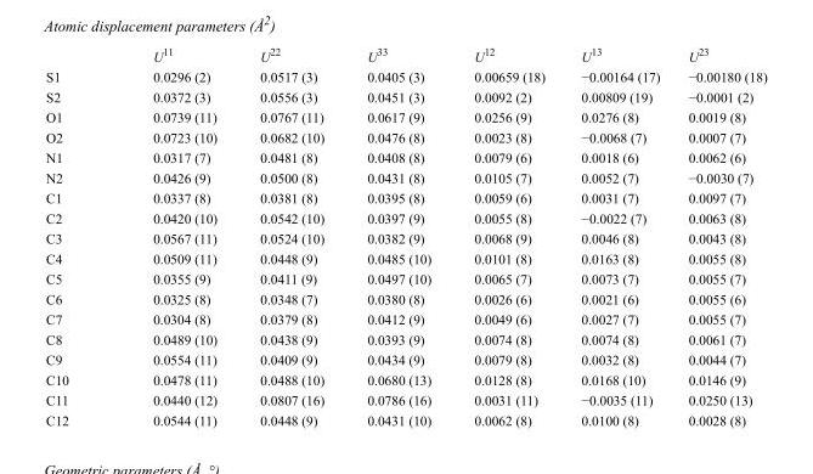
<table><thead><tr><td></td><td>U<sup>11</sup></td><td>U<sup>22</sup></td><td>U<sup>33</sup></td><td>U<sup>12</sup></td><td>U<sup>13</sup></td><td>U<sup>23</sup></td></tr></thead><tbody><tr><td>S1</td><td>0.0296 (2)</td><td>0.0517 (3)</td><td>0.0405 (3)</td><td>0.00659 (18)</td><td>−0.00164 (17)</td><td>−0.00180 (18)</td></tr><tr><td>S2</td><td>0.0372 (3)</td><td>0.0556 (3)</td><td>0.0451 (3)</td><td>0.0092 (2)</td><td>0.00809 (19)</td><td>−0.0001 (2)</td></tr><tr><td>O1</td><td>0.0739 (11)</td><td>0.0767 (11)</td><td>0.0617 (9)</td><td>0.0256 (9)</td><td>0.0276 (8)</td><td>0.0019 (8)</td></tr><tr><td>O2</td><td>0.0723 (10)</td><td>0.0682 (10)</td><td>0.0476 (8)</td><td>0.0023 (8)</td><td>−0.0068 (7)</td><td>0.0007 (7)</td></tr><tr><td>N1</td><td>0.0317 (7)</td><td>0.0481 (8)</td><td>0.0408 (8)</td><td>0.0079 (6)</td><td>0.0018 (6)</td><td>0.0062 (6)</td></tr><tr><td>N2</td><td>0.0426 (9)</td><td>0.0500 (8)</td><td>0.0431 (8)</td><td>0.0105 (7)</td><td>0.0052 (7)</td><td>−0.0030 (7)</td></tr><tr><td>C1</td><td>0.0337 (8)</td><td>0.0381 (8)</td><td>0.0395 (8)</td><td>0.0059 (6)</td><td>0.0031 (7)</td><td>0.0097 (7)</td></tr><tr><td>C2</td><td>0.0420 (10)</td><td>0.0542 (10)</td><td>0.0397 (9)</td><td>0.0055 (8)</td><td>−0.0022 (7)</td><td>0.0063 (8)</td></tr><tr><td>C3</td><td>0.0567 (11)</td><td>0.0524 (10)</td><td>0.0382 (9)</td><td>0.0068 (9)</td><td>0.0046 (8)</td><td>0.0043 (8)</td></tr><tr><td>C4</td><td>0.0509 (11)</td><td>0.0448 (9)</td><td>0.0485 (10)</td><td>0.0101 (8)</td><td>0.0163 (8)</td><td>0.0055 (8)</td></tr><tr><td>C5</td><td>0.0355 (9)</td><td>0.0411 (9)</td><td>0.0497 (10)</td><td>0.0065 (7)</td><td>0.0073 (7)</td><td>0.0055 (7)</td></tr><tr><td>C6</td><td>0.0325 (8)</td><td>0.0348 (7)</td><td>0.0380 (8)</td><td>0.0026 (6)</td><td>0.0021 (6)</td><td>0.0055 (6)</td></tr><tr><td>C7</td><td>0.0304 (8)</td><td>0.0379 (8)</td><td>0.0412 (9)</td><td>0.0049 (6)</td><td>0.0027 (7)</td><td>0.0055 (7)</td></tr><tr><td>C8</td><td>0.0489 (10)</td><td>0.0438 (9)</td><td>0.0393 (9)</td><td>0.0074 (8)</td><td>0.0074 (8)</td><td>0.0061 (7)</td></tr><tr><td>C9</td><td>0.0554 (11)</td><td>0.0409 (9)</td><td>0.0434 (9)</td><td>0.0079 (8)</td><td>0.0032 (8)</td><td>0.0044 (7)</td></tr><tr><td>C10</td><td>0.0478 (11)</td><td>0.0488 (10)</td><td>0.0680 (13)</td><td>0.0128 (8)</td><td>0.0168 (10)</td><td>0.0146 (9)</td></tr><tr><td>C11</td><td>0.0440 (12)</td><td>0.0807 (16)</td><td>0.0786 (16)</td><td>0.0031 (11)</td><td>−0.0035 (11)</td><td>0.0250 (13)</td></tr><tr><td>C12</td><td>0.0544 (11)</td><td>0.0448 (9)</td><td>0.0431 (10)</td><td>0.0062 (8)</td><td>0.0100 (8)</td><td>0.0028 (8)</td></tr></tbody></table>